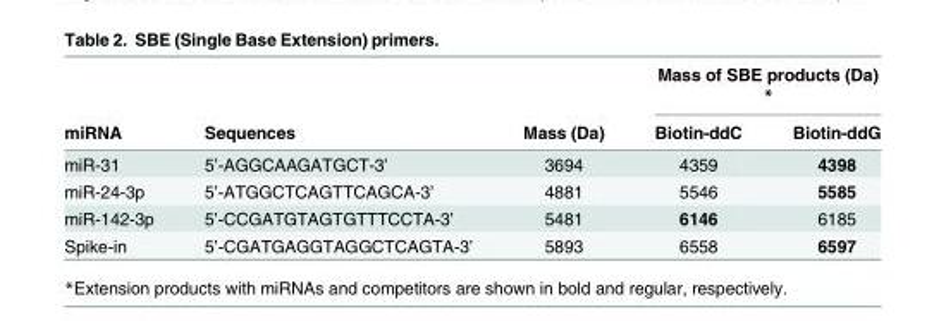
<table><thead><tr><td rowspan="2">miRNA</td><td rowspan="2">Sequences</td><td rowspan="2">Mass (Da)</td><td colspan="2">Mass of SBE products (Da) *</td></tr><tr><td>Biotin-ddC</td><td>Biotin-ddG</td></tr></thead><tbody><tr><td>miR-31</td><td>5’-AGGCAAGATGCT-3’</td><td>3694</td><td>4359</td><td>4398</td></tr><tr><td>miR-24-3p</td><td>5’-ATGGCTCAGTTCAGCA-3’</td><td>4881</td><td>5546</td><td>5585</td></tr><tr><td>miR-142-3p</td><td>5’-CCGATGTAGTGTTTCCTA-3’</td><td>5481</td><td>6146</td><td>6185</td></tr><tr><td>Spike-in</td><td>5’-CGATGAGGTAGGCTCAGTA-3’</td><td>5893</td><td>6558</td><td>6597</td></tr></tbody></table>